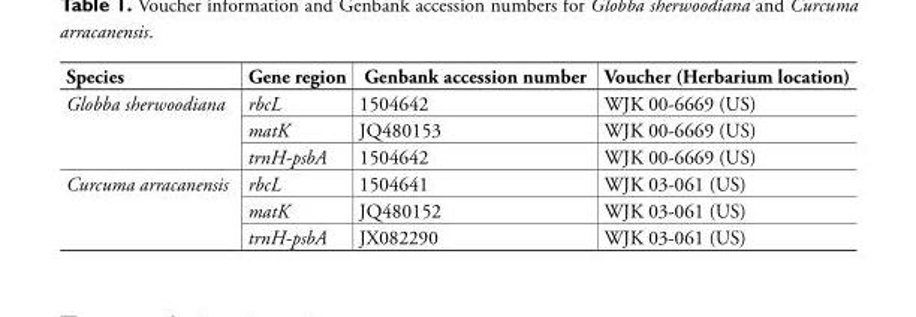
<table><thead><tr><td>Species</td><td>Gene region</td><td>Genbank accession number</td><td>Voucher (Herbarium location)</td></tr></thead><tbody><tr><td rowspan="3">Globba sherwoodiana</td><td>rbcL</td><td>1504642</td><td>WJK 00-6669 (US)</td></tr><tr><td>matK</td><td>JQ480153</td><td>WJK 00-6669 (US)</td></tr><tr><td>trnH-psbA</td><td>1504642</td><td>WJK 00-6669 (US)</td></tr><tr><td rowspan="3">Curcuma arracanensis</td><td>rbcL</td><td>1504641</td><td>WJK 03-061 (US)</td></tr><tr><td>matK</td><td>JQ480152</td><td>WJK 03-061 (US)</td></tr><tr><td>trnH-psbA</td><td>JX082290</td><td>WJK 03-061 (US)</td></tr></tbody></table>